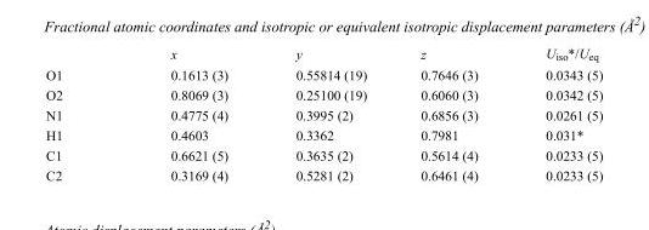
<table><thead><tr><td></td><td>x</td><td>y</td><td>z</td><td>U<sub>iso</sub>*/U<sub>eq</sub></td></tr></thead><tbody><tr><td>O1</td><td>0.1613 (3)</td><td>0.55814 (19)</td><td>0.7646 (3)</td><td>0.0343 (5)</td></tr><tr><td>O2</td><td>0.8069 (3)</td><td>0.25100 (19)</td><td>0.6060 (3)</td><td>0.0342 (5)</td></tr><tr><td>N1</td><td>0.4775 (4)</td><td>0.3995 (2)</td><td>0.6856 (3)</td><td>0.0261 (5)</td></tr><tr><td>H1</td><td>0.4603</td><td>0.3362</td><td>0.7981</td><td>0.031*</td></tr><tr><td>C1</td><td>0.6621 (5)</td><td>0.3635 (2)</td><td>0.5614 (4)</td><td>0.0233 (5)</td></tr><tr><td>C2</td><td>0.3169 (4)</td><td>0.5281 (2)</td><td>0.6461 (4)</td><td>0.0233 (5)</td></tr></tbody></table>